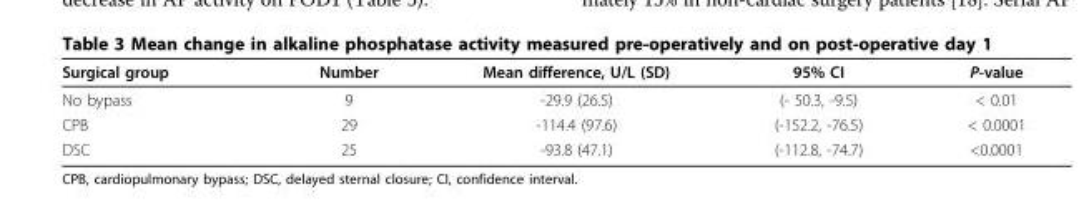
<table><thead><tr><td>Surgical group</td><td>Number</td><td>Mean difference, U/L (SD)</td><td>95% CI</td><td>P-value</td></tr></thead><tbody><tr><td>No bypass</td><td>9</td><td>-29.9 (26.5)</td><td>(- 50.3, -9.5)</td><td>&lt; 0.01</td></tr><tr><td>CPB</td><td>29</td><td>-114.4 (97.6)</td><td>(-152.2, -76.5)</td><td>&lt; 0.0001</td></tr><tr><td>DSC</td><td>25</td><td>-93.8 (47.1)</td><td>(-112.8, -74.7)</td><td>&lt;0.0001</td></tr></tbody></table>